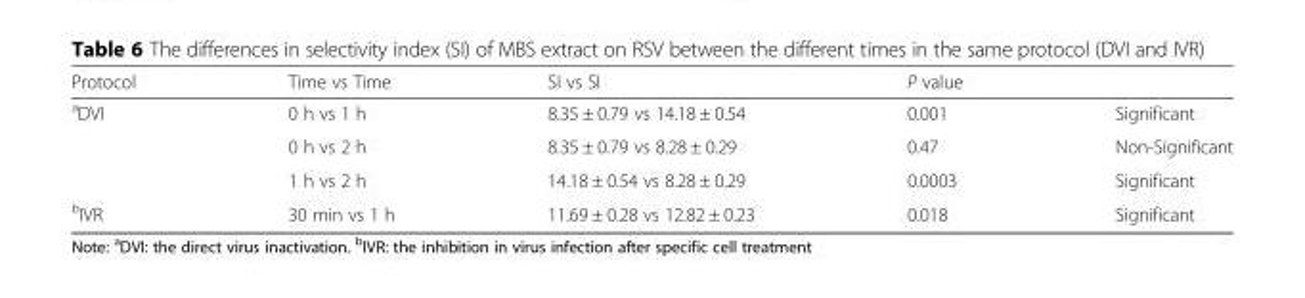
<table><thead><tr><td>Protocol</td><td>Time vs Time</td><td>SI vs SI</td><td>P value</td><td></td></tr></thead><tbody><tr><td rowspan="3"><sup>a</sup>DVI</td><td>0 h vs 1 h</td><td>8.35 ± 0.79 vs 14.18 ± 0.54</td><td>0.001</td><td>Significant</td></tr><tr><td>0 h vs 2 h</td><td>8.35 ± 0.79 vs 8.28 ± 0.29</td><td>0.47</td><td>Non-Significant</td></tr><tr><td>1 h vs 2 h</td><td>14.18 ± 0.54 vs 8.28 ± 0.29</td><td>0.0003</td><td>Significant</td></tr><tr><td><sup>b</sup>IVR</td><td>30 min vs 1 h</td><td>11.69 ± 0.28 vs 12.82 ± 0.23</td><td>0.018</td><td>Significant</td></tr></tbody></table>